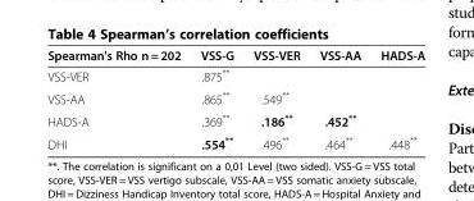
<table><thead><tr><td>Spearman&#x27;s Rho n = 202</td><td>VSS-G</td><td>VSS-VER</td><td>VSS-AA</td><td>HADS-A</td></tr></thead><tbody><tr><td>VSS-VER</td><td>.875**</td><td></td><td></td><td></td></tr><tr><td>VSS-AA</td><td>.865**</td><td>.549**</td><td></td><td></td></tr><tr><td>HADS-A</td><td>.369**</td><td>.186**</td><td>.452**</td><td></td></tr><tr><td>DHI</td><td>.554**</td><td>.496**</td><td>.464**</td><td>.448**</td></tr></tbody></table>